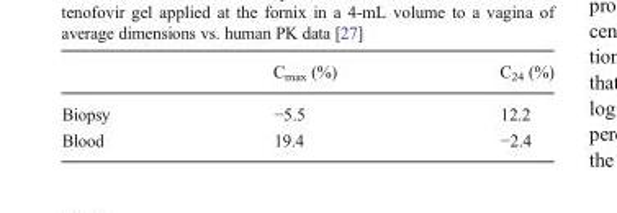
<table><thead><tr><td></td><td>C<sub>max</sub> (%)</td><td>C<sub>24</sub> (%)</td></tr></thead><tbody><tr><td>Biopsy</td><td>−5.5</td><td>12.2</td></tr><tr><td>Blood</td><td>19.4</td><td>−2.4</td></tr></tbody></table>